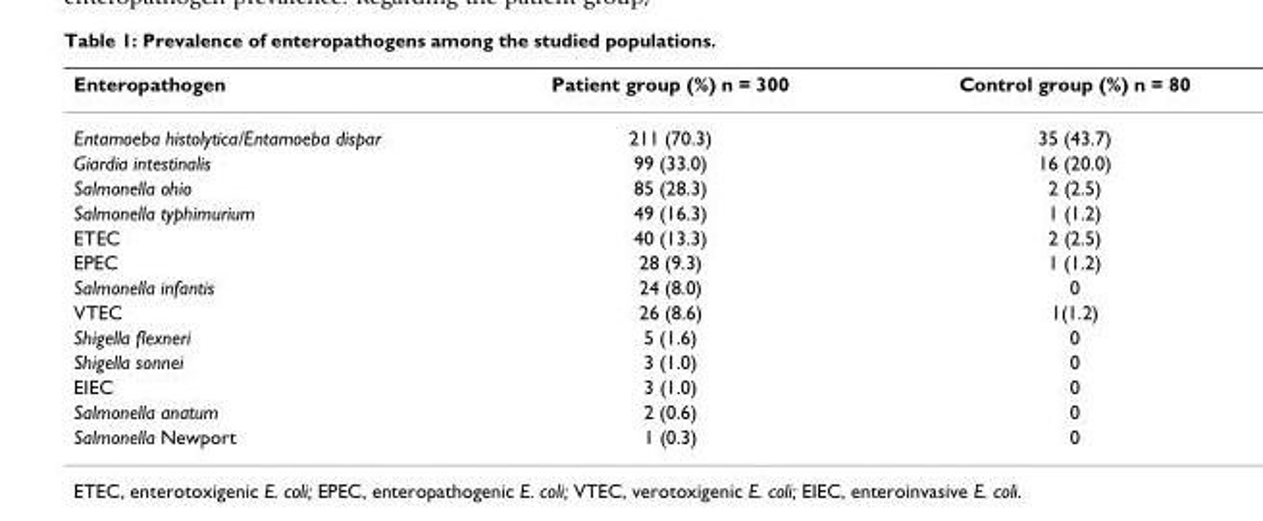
<table><thead><tr><td>Enteropathogen</td><td>Patient group (%) n = 300</td><td>Control group (%) n = 80</td></tr></thead><tbody><tr><td>Entamoeba histolytica/Entamoeba dispar</td><td>211 (70.3)</td><td>35 (43.7)</td></tr><tr><td>Giardia intestinalis</td><td>99 (33.0)</td><td>16 (20.0)</td></tr><tr><td>Salmonella ohio</td><td>85 (28.3)</td><td>2 (2.5)</td></tr><tr><td>Salmonella typhimurium</td><td>49 (16.3)</td><td>1 (1.2)</td></tr><tr><td>ETEC</td><td>40 (13.3)</td><td>2 (2.5)</td></tr><tr><td>EPEC</td><td>28 (9.3)</td><td>1 (1.2)</td></tr><tr><td>Salmonella infantis</td><td>24 (8.0)</td><td>0</td></tr><tr><td>VTEC</td><td>26 (8.6)</td><td>1(1.2)</td></tr><tr><td>Shigella flexneri</td><td>5 (1.6)</td><td>0</td></tr><tr><td>Shigella sonnei</td><td>3 (1.0)</td><td>0</td></tr><tr><td>EIEC</td><td>3 (1.0)</td><td>0</td></tr><tr><td>Salmonella anatum</td><td>2 (0.6)</td><td>0</td></tr><tr><td>Salmonella Newport</td><td>1 (0.3)</td><td>0</td></tr></tbody></table>